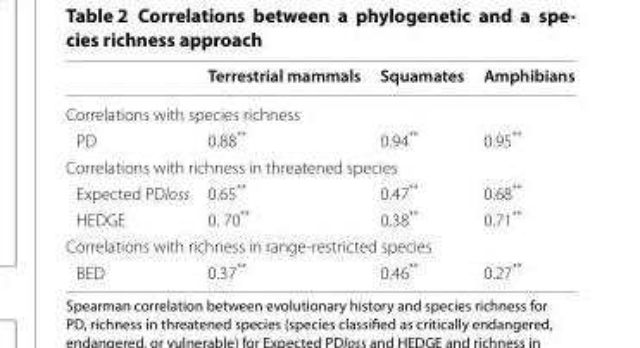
<table><thead><tr><td></td><td>Terrestrial mammals</td><td>Squamates</td><td>Amphibians</td></tr></thead><tbody><tr><td colspan="4">Correlations with species richness</td></tr><tr><td>PD</td><td>0.88**</td><td>0.94**</td><td>0.95**</td></tr><tr><td colspan="4">Correlations with richness in threatened species</td></tr><tr><td>Expected PDloss</td><td>0.65**</td><td>0.47**</td><td>0.68**</td></tr><tr><td>HEDGE</td><td>0. 70**</td><td>0.38**</td><td>0.71**</td></tr><tr><td colspan="4">Correlations with richness in range-restricted species</td></tr><tr><td>BED</td><td>0.37**</td><td>0.46**</td><td>0.27**</td></tr></tbody></table>